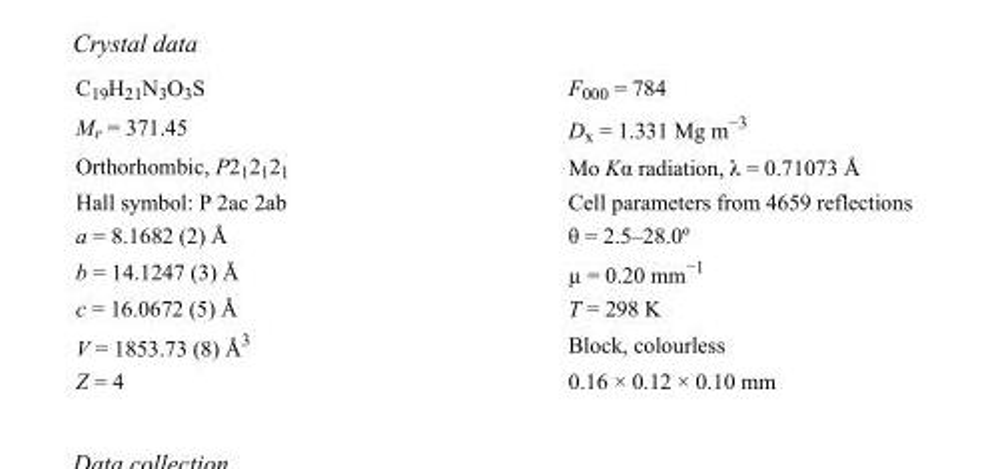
<table><tbody><tr><td>C<sub>19</sub>H<sub>21</sub>N<sub>3</sub>O<sub>3</sub>S</td><td>F000 = 784</td></tr><tr><td>M<sub>r</sub> = 371.45</td><td>D<sub>x</sub> = 1.331 Mg m<sup>−3</sup></td></tr><tr><td>Orthorhombic, P2<sub>1</sub>2<sub>1</sub>2<sub>1</sub></td><td>Mo Kα radiation, λ = 0.71073 Å</td></tr><tr><td>Hall symbol: P 2ac 2ab</td><td>Cell parameters from 4659 reflections</td></tr><tr><td>a = 8.1682 (2) Å</td><td>θ = 2.5–28.0º</td></tr><tr><td>b = 14.1247 (3) Å</td><td>µ = 0.20 mm<sup>−1</sup></td></tr><tr><td>c = 16.0672 (5) Å</td><td>T = 298 K</td></tr><tr><td>V = 1853.73 (8) Å<sup>3</sup></td><td>Block, colourless</td></tr><tr><td>Z = 4</td><td>0.16 × 0.12 × 0.10 mm</td></tr></tbody></table>